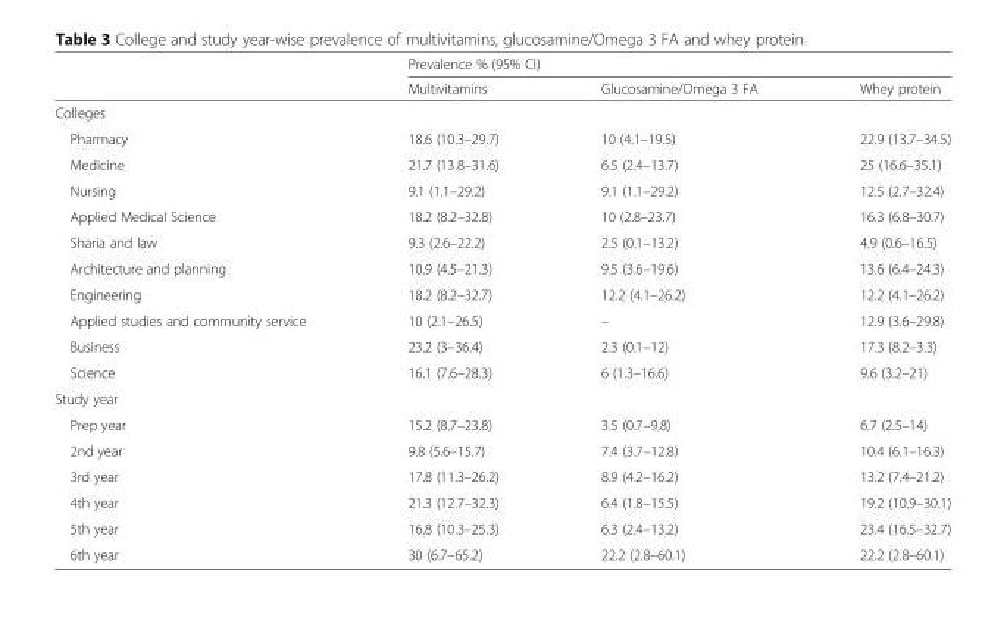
<table><thead><tr><td rowspan="2"></td><td colspan="3">Prevalence % (95% CI)</td></tr><tr><td>Multivitamins</td><td>Glucosamine/Omega 3 FA</td><td>Whey protein</td></tr></thead><tbody><tr><td colspan="4">Colleges</td></tr><tr><td>Pharmacy</td><td>18.6 (10.3–29.7)</td><td>10 (4.1–19.5)</td><td>22.9 (13.7–34.5)</td></tr><tr><td>Medicine</td><td>21.7 (13.8–31.6)</td><td>6.5 (2.4–13.7)</td><td>25 (16.6–35.1)</td></tr><tr><td>Nursing</td><td>9.1 (1.1–29.2)</td><td>9.1 (1.1–29.2)</td><td>12.5 (2.7–32.4)</td></tr><tr><td>Applied Medical Science</td><td>18.2 (8.2–32.8)</td><td>10 (2.8–23.7)</td><td>16.3 (6.8–30.7)</td></tr><tr><td>Sharia and law</td><td>9.3 (2.6–22.2)</td><td>2.5 (0.1–13.2)</td><td>4.9 (0.6–16.5)</td></tr><tr><td>Architecture and planning</td><td>10.9 (4.5–21.3)</td><td>9.5 (3.6–19.6)</td><td>13.6 (6.4–24.3)</td></tr><tr><td>Engineering</td><td>18.2 (8.2–32.7)</td><td>12.2 (4.1–26.2)</td><td>12.2 (4.1–26.2)</td></tr><tr><td>Applied studies and community service</td><td>10 (2.1–26.5)</td><td>–</td><td>12.9 (3.6–29.8)</td></tr><tr><td>Business</td><td>23.2 (3–36.4)</td><td>2.3 (0.1–12)</td><td>17.3 (8.2–3.3)</td></tr><tr><td>Science</td><td>16.1 (7.6–28.3)</td><td>6 (1.3–16.6)</td><td>9.6 (3.2–21)</td></tr><tr><td colspan="4">Study year</td></tr><tr><td>Prep year</td><td>15.2 (8.7–23.8)</td><td>3.5 (0.7–9.8)</td><td>6.7 (2.5–14)</td></tr><tr><td>2nd year</td><td>9.8 (5.6–15.7)</td><td>7.4 (3.7–12.8)</td><td>10.4 (6.1–16.3)</td></tr><tr><td>3rd year</td><td>17.8 (11.3–26.2)</td><td>8.9 (4.2–16.2)</td><td>13.2 (7.4–21.2)</td></tr><tr><td>4th year</td><td>21.3 (12.7–32.3)</td><td>6.4 (1.8–15.5)</td><td>19.2 (10.9–30.1)</td></tr><tr><td>5th year</td><td>16.8 (10.3–25.3)</td><td>6.3 (2.4–13.2)</td><td>23.4 (16.5–32.7)</td></tr><tr><td>6th year</td><td>30 (6.7–65.2)</td><td>22.2 (2.8–60.1)</td><td>22.2 (2.8–60.1)</td></tr></tbody></table>